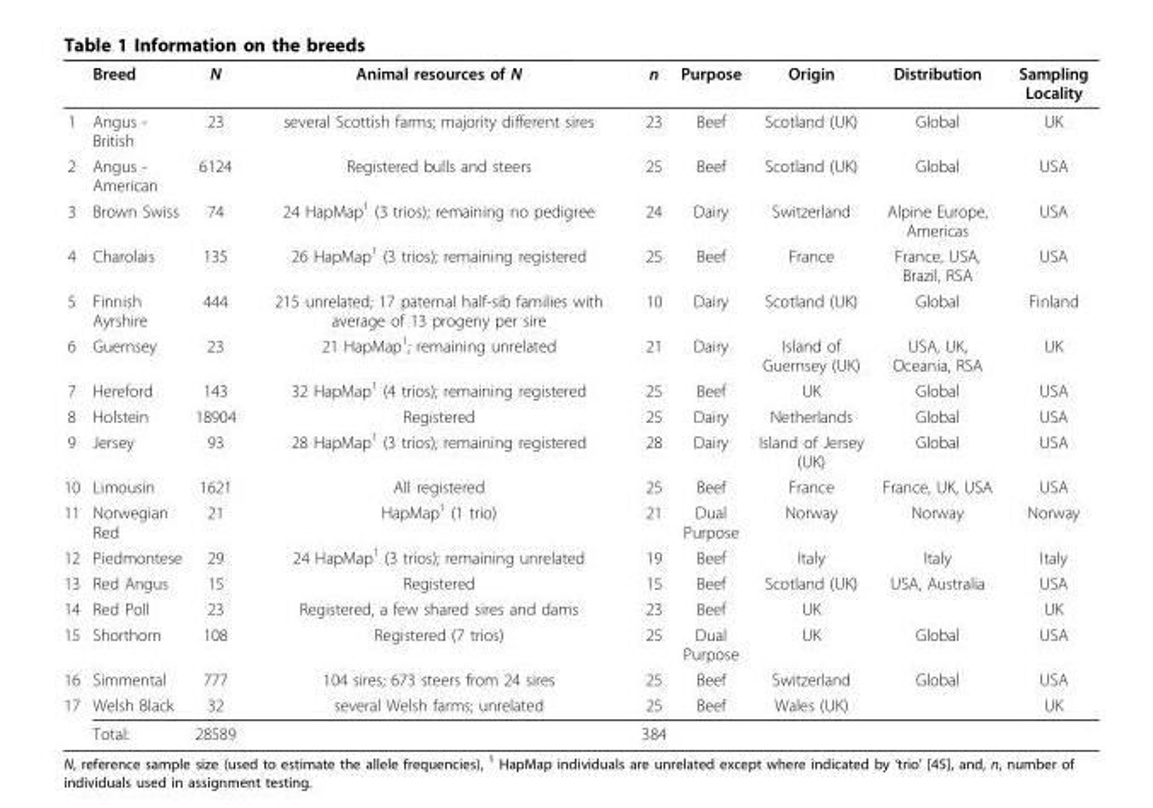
<table><thead><tr><td></td><td>Breed</td><td>N</td><td>Animal resources of N</td><td>n</td><td>Purpose</td><td>Origin</td><td>Distribution</td><td>Sampling Locality</td></tr></thead><tbody><tr><td>1</td><td>Angus - British</td><td>23</td><td>several Scottish farms; majority different sires</td><td>23</td><td>Beef</td><td>Scotland (UK)</td><td>Global</td><td>UK</td></tr><tr><td>2</td><td>Angus - American</td><td>6124</td><td>Registered bulls and steers</td><td>25</td><td>Beef</td><td>Scotland (UK)</td><td>Global</td><td>USA</td></tr><tr><td>3</td><td>Brown Swiss</td><td>74</td><td>24 HapMap<sup>1</sup> (3 trios); remaining no pedigree</td><td>24</td><td>Dairy</td><td>Switzerland</td><td>Alpine Europe, Americas</td><td>USA</td></tr><tr><td>4</td><td>Charolais</td><td>135</td><td>26 HapMap<sup>1</sup> (3 trios); remaining registered</td><td>25</td><td>Beef</td><td>France</td><td>France, USA, Brazil, RSA</td><td>USA</td></tr><tr><td>5</td><td>Finnish Ayrshire</td><td>444</td><td>215 unrelated; 17 paternal half-sib families with average of 13 progeny per sire</td><td>10</td><td>Dairy</td><td>Scotland (UK)</td><td>Global</td><td>Finland</td></tr><tr><td>6</td><td>Guernsey</td><td>23</td><td>21 HapMap<sup>1</sup>; remaining unrelated</td><td>21</td><td>Dairy</td><td>Island of Guernsey (UK)</td><td>USA, UK, Oceania, RSA</td><td>UK</td></tr><tr><td>7</td><td>Hereford</td><td>143</td><td>32 HapMap<sup>1</sup> (4 trios); remaining registered</td><td>25</td><td>Beef</td><td>UK</td><td>Global</td><td>USA</td></tr><tr><td>8</td><td>Holstein</td><td>18904</td><td>Registered</td><td>25</td><td>Dairy</td><td>Netherlands</td><td>Global</td><td>USA</td></tr><tr><td>9</td><td>Jersey</td><td>93</td><td>28 HapMap<sup>1</sup> (3 trios); remaining registered</td><td>28</td><td>Dairy</td><td>Island of Jersey (UK)</td><td>Global</td><td>USA</td></tr><tr><td>10</td><td>Limousin</td><td>1621</td><td>All registered</td><td>25</td><td>Beef</td><td>France</td><td>France, UK, USA</td><td>USA</td></tr><tr><td>11</td><td>Norwegian Red</td><td>21</td><td>HapMap<sup>1</sup> (1 trio)</td><td>21</td><td>Dual Purpose</td><td>Norway</td><td>Norway</td><td>Norway</td></tr><tr><td>12</td><td>Piedmontese</td><td>29</td><td>24 HapMap<sup>1</sup> (3 trios); remaining unrelated</td><td>19</td><td>Beef</td><td>Italy</td><td>Italy</td><td>Italy</td></tr><tr><td>13</td><td>Red Angus</td><td>15</td><td>Registered</td><td>15</td><td>Beef</td><td>Scotland (UK)</td><td>USA, Australia</td><td>USA</td></tr><tr><td>14</td><td>Red Poll</td><td>23</td><td>Registered, a few shared sires and dams</td><td>23</td><td>Beef</td><td>UK</td><td></td><td>UK</td></tr><tr><td>15</td><td>Shorthorn</td><td>108</td><td>Registered (7 trios)</td><td>25</td><td>Dual Purpose</td><td>UK</td><td>Global</td><td>USA</td></tr><tr><td>16</td><td>Simmental</td><td>777</td><td>104 sires; 673 steers from 24 sires</td><td>25</td><td>Beef</td><td>Switzerland</td><td>Global</td><td>USA</td></tr><tr><td rowspan="2">17</td><td>Welsh Black</td><td>32</td><td>several Welsh farms; unrelated</td><td>25</td><td>Beef</td><td>Wales (UK)</td><td></td><td>UK</td></tr><tr><td>Total:</td><td>28589</td><td></td><td>384</td><td></td><td></td><td></td><td></td></tr></tbody></table>